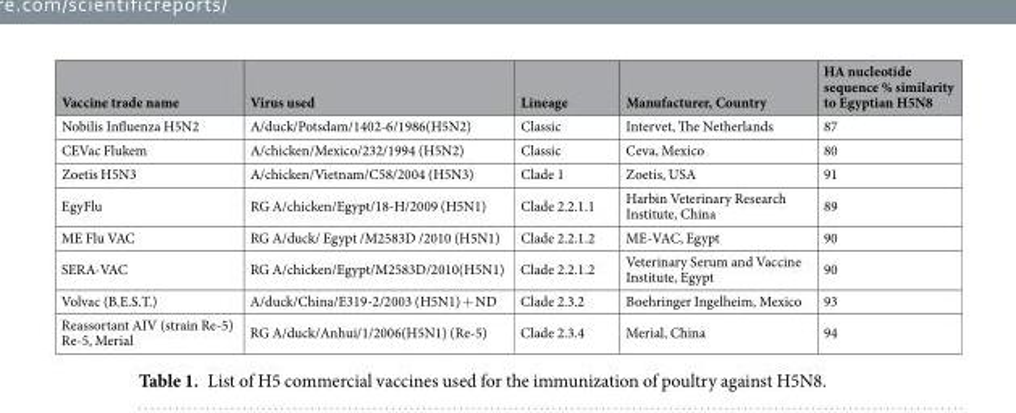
<table><thead><tr><td>Vaccine trade name</td><td>Virus used</td><td>Lineage</td><td>Manufacturer, Country</td><td>HA nucleotide sequence % similarity to Egyptian H5N8</td></tr></thead><tbody><tr><td>Nobilis Influenza H5N2</td><td>A/duck/Potsdam/1402-6/1986(H5N2)</td><td>Classic</td><td>Intervet, The Netherlands</td><td>87</td></tr><tr><td>CEVac Flukem</td><td>A/chicken/Mexico/232/1994 (H5N2)</td><td>Classic</td><td>Ceva, Mexico</td><td>80</td></tr><tr><td>Zoetis H5N3</td><td>A/chicken/Vietnam/C58/2004 (H5N3)</td><td>Clade 1</td><td>Zoetis, USA</td><td>91</td></tr><tr><td>EgyFlu</td><td>RG A/chicken/Egypt/18-H/2009 (H5N1)</td><td>Clade 2.2.1.1</td><td>Harbin Veterinary Research Institute, China</td><td>89</td></tr><tr><td>ME Flu VAC</td><td>RG A/duck/ Egypt /M2583D /2010 (H5N1)</td><td>Clade 2.2.1.2</td><td>ME-VAC, Egypt</td><td>90</td></tr><tr><td>SERA-VAC</td><td>RG A/chicken/Egypt/M2583D/2010(H5N1)</td><td>Clade 2.2.1.2</td><td>Veterinary Serum and Vaccine Institute, Egypt</td><td>90</td></tr><tr><td>Volvac (B.E.S.T.)</td><td>A/duck/China/E319-2/2003 (H5N1) + ND</td><td>Clade 2.3.2</td><td>Boehringer Ingelheim, Mexico</td><td>93</td></tr><tr><td>Reassortant AIV (strain Re-5) Re-5, Merial</td><td>RG A/duck/Anhui/1/2006(H5N1) (Re-5)</td><td>Clade 2.3.4</td><td>Merial, China</td><td>94</td></tr></tbody></table>